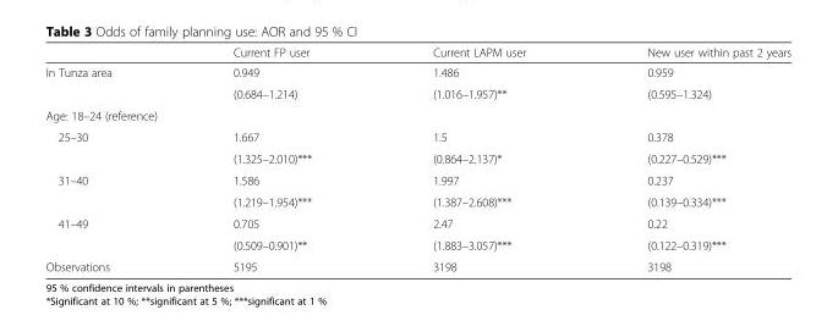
<table><thead><tr><td></td><td>Current FP user</td><td>Current LAPM user</td><td>New user within past 2 years</td></tr></thead><tbody><tr><td rowspan="2">In Tunza area</td><td>0.949</td><td>1.486</td><td>0.959</td></tr><tr><td>(0.684–1.214)</td><td>(1.016–1.957)**</td><td>(0.595–1.324)</td></tr><tr><td colspan="4">Age: 18–24 (reference)</td></tr><tr><td rowspan="2">25–30</td><td>1.667</td><td>1.5</td><td>0.378</td></tr><tr><td>(1.325–2.010)***</td><td>(0.864–2.137)*</td><td>(0.227–0.529)***</td></tr><tr><td rowspan="2">31–40</td><td>1.586</td><td>1.997</td><td>0.237</td></tr><tr><td>(1.219–1.954)***</td><td>(1.387–2.608)***</td><td>(0.139–0.334)***</td></tr><tr><td rowspan="2">41–49</td><td>0.705</td><td>2.47</td><td>0.22</td></tr><tr><td>(0.509–0.901)**</td><td>(1.883–3.057)***</td><td>(0.122–0.319)***</td></tr><tr><td>Observations</td><td>5195</td><td>3198</td><td>3198</td></tr></tbody></table>